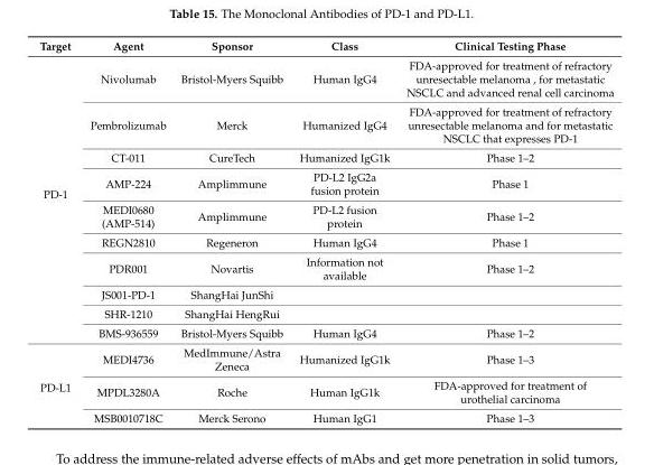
<table><thead><tr><td>Target</td><td>Agent</td><td>Sponsor</td><td>Class</td><td>Clinical Testing Phase</td></tr></thead><tbody><tr><td rowspan="10">PD-1</td><td>Nivolumab</td><td>Bristol-Myers Squibb</td><td>Human IgG4</td><td>FDA-approved for treatment of refractory unresectable melanoma , for metastatic NSCLC and advanced renal cell carcinoma</td></tr><tr><td>Pembrolizumab</td><td>Merck</td><td>Humanized IgG4</td><td>FDA-approved for treatment of refractory unresectable melanoma and for metastatic NSCLC that expresses PD-1</td></tr><tr><td>CT-011</td><td>CureTech</td><td>Humanized IgG1k</td><td>Phase 1–2</td></tr><tr><td>AMP-224</td><td>Amplimmune</td><td>PD-L2 IgG2a fusion protein</td><td>Phase 1</td></tr><tr><td>MEDI0680 (AMP-514)</td><td>Amplimmune</td><td>PD-L2 fusion protein</td><td>Phase 1–2</td></tr><tr><td>REGN2810</td><td>Regeneron</td><td>Human IgG4</td><td>Phase 1</td></tr><tr><td>PDR001</td><td>Novartis</td><td>Information not available</td><td>Phase 1–2</td></tr><tr><td>JS001-PD-1</td><td>ShangHai JunShi</td><td></td><td></td></tr><tr><td>SHR-1210</td><td>ShangHai HengRui</td><td></td><td></td></tr><tr><td>BMS-936559</td><td>Bristol-Myers Squibb</td><td>Human IgG4</td><td>Phase 1–2</td></tr><tr><td rowspan="3">PD-L1</td><td>MEDI4736</td><td>MedImmune/Astra Zeneca</td><td>Humanized IgG1k</td><td>Phase 1–3</td></tr><tr><td>MPDL3280A</td><td>Roche</td><td>Human IgG1k</td><td>FDA-approved for treatment of urothelial carcinoma</td></tr><tr><td>MSB0010718C</td><td>Merck Serono</td><td>Human IgG1</td><td>Phase 1–3</td></tr></tbody></table>